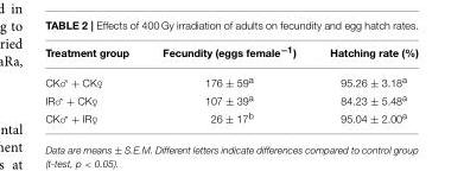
<table><thead><tr><td>Treatment group</td><td>Fecundity (eggs female<sup>−1</sup>)</td><td>Hatching rate (%)</td></tr></thead><tbody><tr><td>CK♂ + CK♀</td><td>176 ± 59<sup>a</sup></td><td>95.26 ± 3.18<sup>a</sup></td></tr><tr><td>IR♂ + CK♀</td><td>107 ± 39<sup>a</sup></td><td>84.23 ± 5.48<sup>a</sup></td></tr><tr><td>CK♂ + IR♀</td><td>26 ± 17<sup>b</sup></td><td>95.04 ± 2.00<sup>a</sup></td></tr></tbody></table>